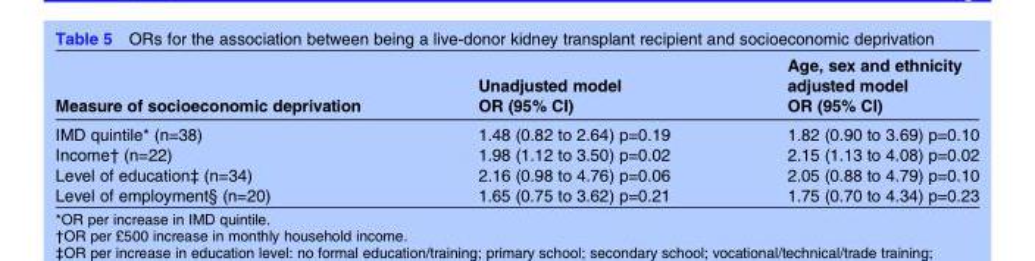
<table><thead><tr><td>Measure of socioeconomic deprivation</td><td>Unadjusted model OR (95% CI)</td><td>Age, sex and ethnicity adjusted model OR (95% CI)</td></tr></thead><tbody><tr><td>IMD quintile* (n=38)</td><td>1.48 (0.82 to 2.64) p=0.19</td><td>1.82 (0.90 to 3.69) p=0.10</td></tr><tr><td>Income† (n=22)</td><td>1.98 (1.12 to 3.50) p=0.02</td><td>2.15 (1.13 to 4.08) p=0.02</td></tr><tr><td>Level of education‡ (n=34)</td><td>2.16 (0.98 to 4.76) p=0.06</td><td>2.05 (0.88 to 4.79) p=0.10</td></tr><tr><td>Level of employment§ (n=20)</td><td>1.65 (0.75 to 3.62) p=0.21</td><td>1.75 (0.70 to 4.34) p=0.23</td></tr></tbody></table>